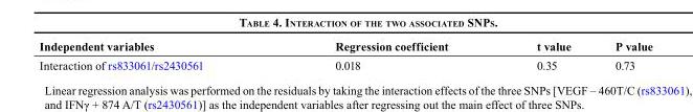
<table><thead><tr><td>Independent variables</td><td>Regression coefficient</td><td>t value</td><td>P value</td></tr></thead><tbody><tr><td>Interaction of rs833061/rs2430561</td><td>0.018</td><td>0.35</td><td>0.73</td></tr></tbody></table>